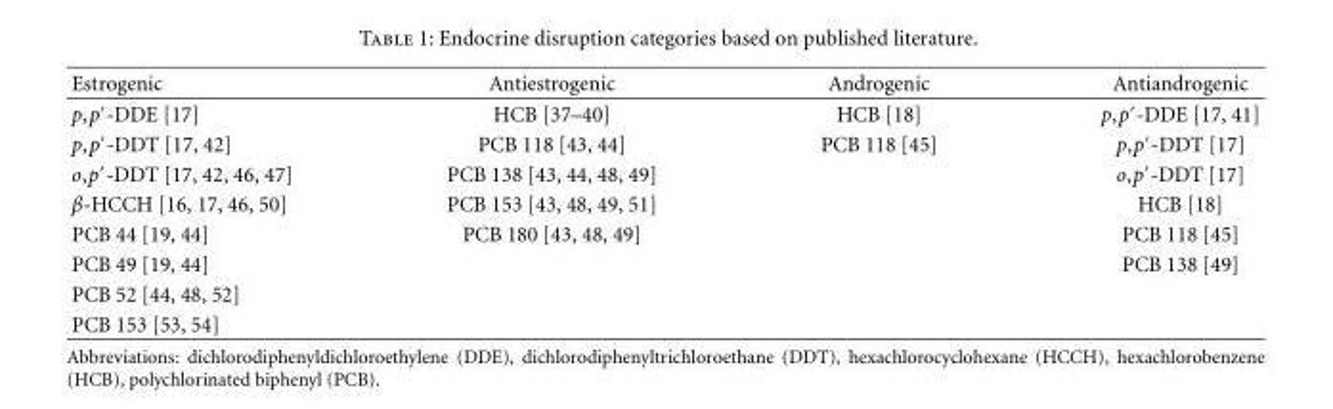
<table><thead><tr><td>Estrogenic</td><td>Antiestrogenic</td><td>Androgenic</td><td>Antiandrogenic</td></tr></thead><tbody><tr><td>p,p′-DDE [17]</td><td>HCB [37–40]</td><td>HCB [18]</td><td>p,p′-DDE [17, 41]</td></tr><tr><td>p,p′-DDT [17, 42]</td><td>PCB 118 [43, 44]</td><td>PCB 118 [45]</td><td>p,p′-DDT [17]</td></tr><tr><td>o,p′-DDT [17, 42, 46, 47]</td><td>PCB 138 [43, 44, 48, 49]</td><td></td><td>o,p′-DDT [17]</td></tr><tr><td>β-HCCH [16, 17, 46, 50]</td><td>PCB 153 [43, 48, 49, 51]</td><td></td><td>HCB [18]</td></tr><tr><td>PCB 44 [19, 44]</td><td>PCB 180 [43, 48, 49]</td><td></td><td>PCB 118 [45]</td></tr><tr><td>PCB 49 [19, 44]</td><td></td><td></td><td>PCB 138 [49]</td></tr><tr><td colspan="4">PCB 52 [44, 48, 52]</td></tr><tr><td>PCB 153 [53, 54]</td><td></td><td></td><td></td></tr></tbody></table>